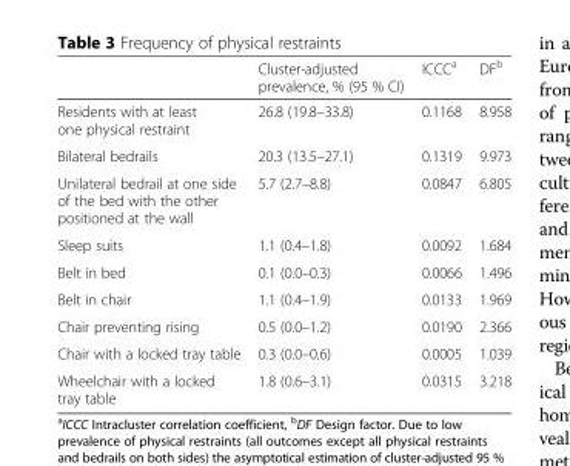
<table><thead><tr><td></td><td>Cluster-adjusted prevalence, % (95 % CI)</td><td>ICCC<sup>a</sup></td><td>DF<sup>b</sup></td></tr></thead><tbody><tr><td>Residents with at least one physical restraint</td><td>26.8 (19.8–33.8)</td><td>0.1168</td><td>8.958</td></tr><tr><td>Bilateral bedrails</td><td>20.3 (13.5–27.1)</td><td>0.1319</td><td>9.973</td></tr><tr><td>Unilateral bedrail at one side of the bed with the other positioned at the wall</td><td>5.7 (2.7–8.8)</td><td>0.0847</td><td>6.805</td></tr><tr><td>Sleep suits</td><td>1.1 (0.4–1.8)</td><td>0.0092</td><td>1.684</td></tr><tr><td>Belt in bed</td><td>0.1 (0.0–0.3)</td><td>0.0066</td><td>1.496</td></tr><tr><td>Belt in chair</td><td>1.1 (0.4–1.9)</td><td>0.0133</td><td>1.969</td></tr><tr><td>Chair preventing rising</td><td>0.5 (0.0–1.2)</td><td>0.0190</td><td>2.366</td></tr><tr><td>Chair with a locked tray table</td><td>0.3 (0.0–0.6)</td><td>0.0005</td><td>1.039</td></tr><tr><td>Wheelchair with a locked tray table</td><td>1.8 (0.6–3.1)</td><td>0.0315</td><td>3.218</td></tr></tbody></table>